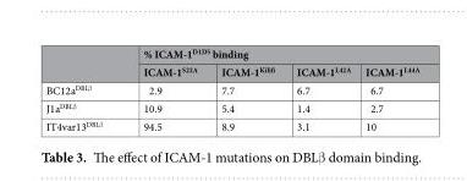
<table><thead><tr><td rowspan="2"></td><td colspan="4">% ICAM-1<sup>D1D5</sup> binding</td></tr><tr><td>ICAM-1<sup>S22A</sup></td><td>ICAM-1<sup>Kilifi</sup></td><td>ICAM-1<sup>L42A</sup></td><td>ICAM-1<sup>L44A</sup></td></tr></thead><tbody><tr><td>BC12a<sup>DBLβ</sup></td><td>2.9</td><td>7.7</td><td>6.7</td><td>6.7</td></tr><tr><td>J1a<sup>DBLβ</sup></td><td>10.9</td><td>5.4</td><td>1.4</td><td>2.7</td></tr><tr><td>IT4var13<sup>DBLβ</sup></td><td>94.5</td><td>8.9</td><td>3.1</td><td>10</td></tr></tbody></table>